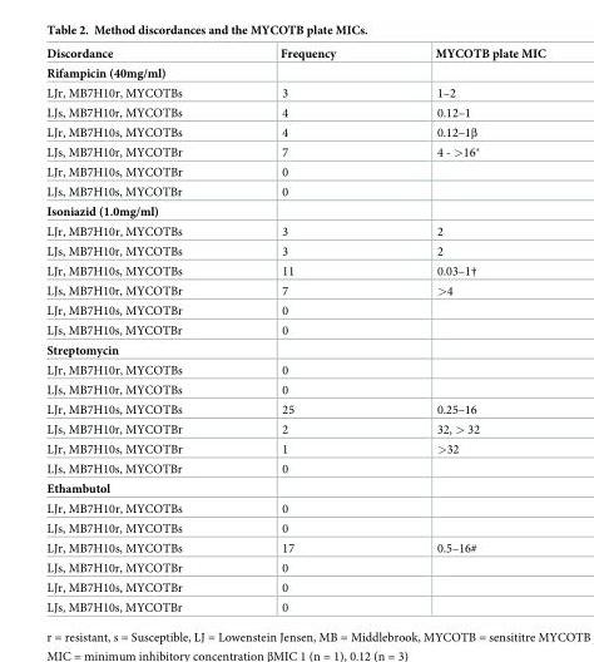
<table><thead><tr><td>Discordance</td><td>Frequency</td><td>MYCOTB plate MIC</td></tr></thead><tbody><tr><td colspan="3">Rifampicin (40mg/ml)</td></tr><tr><td>LJr, MB7H10r, MYCOTBs</td><td>3</td><td>1–2</td></tr><tr><td>LJs, MB7H10r, MYCOTBs</td><td>4</td><td>0.12–1</td></tr><tr><td>LJr, MB7H10s, MYCOTBs</td><td>4</td><td>0.12–1β</td></tr><tr><td>LJs, MB7H10r, MYCOTBr</td><td>7</td><td>4 - &gt;16*</td></tr><tr><td>LJr, MB7H10s, MYCOTBr</td><td>0</td><td></td></tr><tr><td>LJs, MB7H10s, MYCOTBr</td><td>0</td><td></td></tr><tr><td colspan="3">Isoniazid (1.0mg/ml)</td></tr><tr><td>LJr, MB7H10r, MYCOTBs</td><td>3</td><td>2</td></tr><tr><td>LJs, MB7H10r, MYCOTBs</td><td>3</td><td>2</td></tr><tr><td>LJr, MB7H10s, MYCOTBs</td><td>11</td><td>0.03–1†</td></tr><tr><td>LJs, MB7H10r, MYCOTBr</td><td>7</td><td>&gt;4</td></tr><tr><td>LJr, MB7H10s, MYCOTBr</td><td>0</td><td></td></tr><tr><td>LJs, MB7H10s, MYCOTBr</td><td>0</td><td></td></tr><tr><td colspan="3">Streptomycin</td></tr><tr><td>LJr, MB7H10r, MYCOTBs</td><td>0</td><td></td></tr><tr><td>LJs, MB7H10r, MYCOTBs</td><td>0</td><td></td></tr><tr><td>LJr, MB7H10s, MYCOTBs</td><td>25</td><td>0.25–16</td></tr><tr><td>LJs, MB7H10r, MYCOTBr</td><td>2</td><td>32, &gt; 32</td></tr><tr><td>LJr, MB7H10s, MYCOTBr</td><td>1</td><td>&gt;32</td></tr><tr><td>LJs, MB7H10s, MYCOTBr</td><td>0</td><td></td></tr><tr><td colspan="3">Ethambutol</td></tr><tr><td>LJr, MB7H10r, MYCOTBs</td><td>0</td><td></td></tr><tr><td>LJs, MB7H10r, MYCOTBs</td><td>0</td><td></td></tr><tr><td>LJr, MB7H10s, MYCOTBs</td><td>17</td><td>0.5–16#</td></tr><tr><td>LJs, MB7H10r, MYCOTBr</td><td>0</td><td></td></tr><tr><td>LJr, MB7H10s, MYCOTBr</td><td>0</td><td></td></tr><tr><td>LJs, MB7H10s, MYCOTBr</td><td>0</td><td></td></tr></tbody></table>